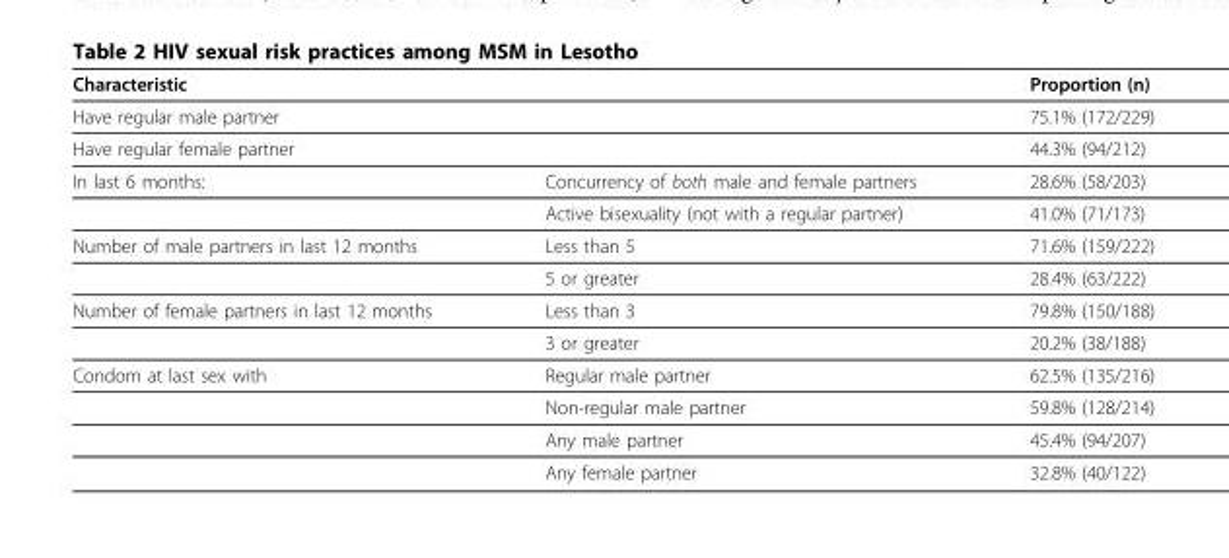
<table><thead><tr><td>Characteristic</td><td></td><td>Proportion (n)</td></tr></thead><tbody><tr><td>Have regular male partner</td><td></td><td>75.1% (172/229)</td></tr><tr><td>Have regular female partner</td><td></td><td>44.3% (94/212)</td></tr><tr><td rowspan="2">In last 6 months:</td><td>Concurrency of both male and female partners</td><td>28.6% (58/203)</td></tr><tr><td>Active bisexuality (not with a regular partner)</td><td>41.0% (71/173)</td></tr><tr><td rowspan="2">Number of male partners in last 12 months</td><td>Less than 5</td><td>71.6% (159/222)</td></tr><tr><td>5 or greater</td><td>28.4% (63/222)</td></tr><tr><td rowspan="2">Number of female partners in last 12 months</td><td>Less than 3</td><td>79.8% (150/188)</td></tr><tr><td>3 or greater</td><td>20.2% (38/188)</td></tr><tr><td rowspan="4">Condom at last sex with</td><td>Regular male partner</td><td>62.5% (135/216)</td></tr><tr><td>Non-regular male partner</td><td>59.8% (128/214)</td></tr><tr><td>Any male partner</td><td>45.4% (94/207)</td></tr><tr><td>Any female partner</td><td>32.8% (40/122)</td></tr></tbody></table>